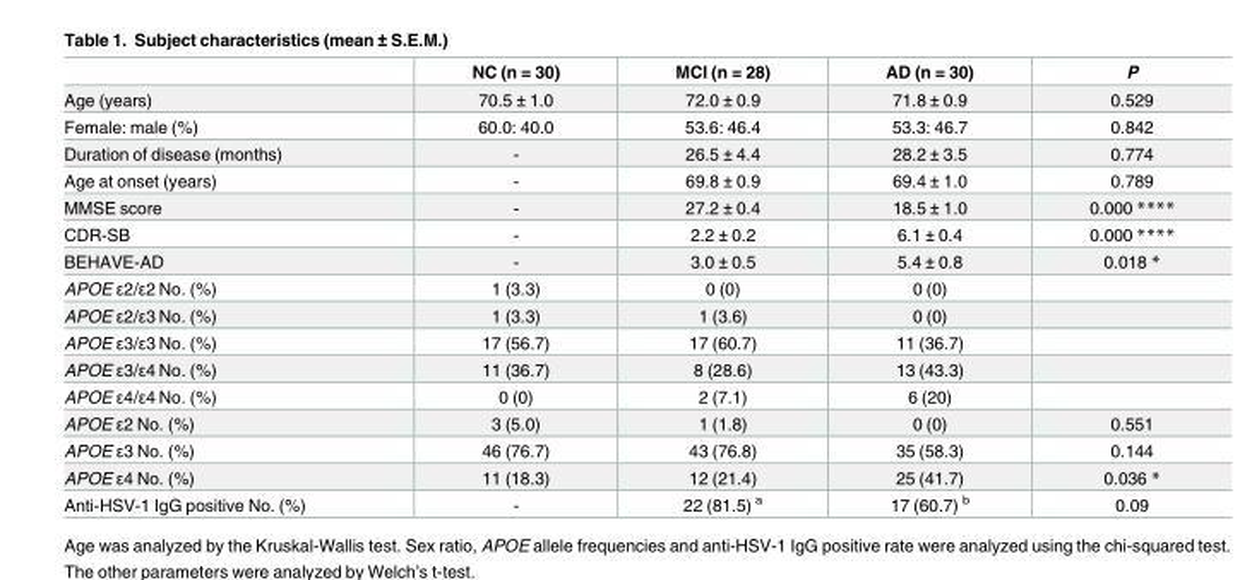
<table><thead><tr><td></td><td>NC (n = 30)</td><td>MCI (n = 28)</td><td>AD (n = 30)</td><td>P</td></tr></thead><tbody><tr><td>Age (years)</td><td>70.5 ± 1.0</td><td>72.0 ± 0.9</td><td>71.8 ± 0.9</td><td>0.529</td></tr><tr><td>Female: male (%)</td><td>60.0: 40.0</td><td>53.6: 46.4</td><td>53.3: 46.7</td><td>0.842</td></tr><tr><td>Duration of disease (months)</td><td>-</td><td>26.5 ± 4.4</td><td>28.2 ± 3.5</td><td>0.774</td></tr><tr><td>Age at onset (years)</td><td>-</td><td>69.8 ± 0.9</td><td>69.4 ± 1.0</td><td>0.789</td></tr><tr><td>MMSE score</td><td>-</td><td>27.2 ± 0.4</td><td>18.5 ± 1.0</td><td>0.000 ****</td></tr><tr><td>CDR-SB</td><td>-</td><td>2.2 ± 0.2</td><td>6.1 ± 0.4</td><td>0.000 ****</td></tr><tr><td>BEHAVE-AD</td><td>-</td><td>3.0 ± 0.5</td><td>5.4 ± 0.8</td><td>0.018 *</td></tr><tr><td>APOE ε2/ε2 No. (%)</td><td>1 (3.3)</td><td>0 (0)</td><td>0 (0)</td><td></td></tr><tr><td>APOE ε2/ε3 No. (%)</td><td>1 (3.3)</td><td>1 (3.6)</td><td>0 (0)</td><td></td></tr><tr><td>APOE ε3/ε3 No. (%)</td><td>17 (56.7)</td><td>17 (60.7)</td><td>11 (36.7)</td><td></td></tr><tr><td>APOE ε3/ε4 No. (%)</td><td>11 (36.7)</td><td>8 (28.6)</td><td>13 (43.3)</td><td></td></tr><tr><td>APOE ε4/ε4 No. (%)</td><td>0 (0)</td><td>2 (7.1)</td><td>6 (20)</td><td></td></tr><tr><td>APOE ε2 No. (%)</td><td>3 (5.0)</td><td>1 (1.8)</td><td>0 (0)</td><td>0.551</td></tr><tr><td>APOE ε3 No. (%)</td><td>46 (76.7)</td><td>43 (76.8)</td><td>35 (58.3)</td><td>0.144</td></tr><tr><td>APOE ε4 No. (%)</td><td>11 (18.3)</td><td>12 (21.4)</td><td>25 (41.7)</td><td>0.036 *</td></tr><tr><td>Anti-HSV-1 IgG positive No. (%)</td><td>-</td><td>22 (81.5) <sup>a</sup></td><td>17 (60.7) <sup>b</sup></td><td>0.09</td></tr></tbody></table>